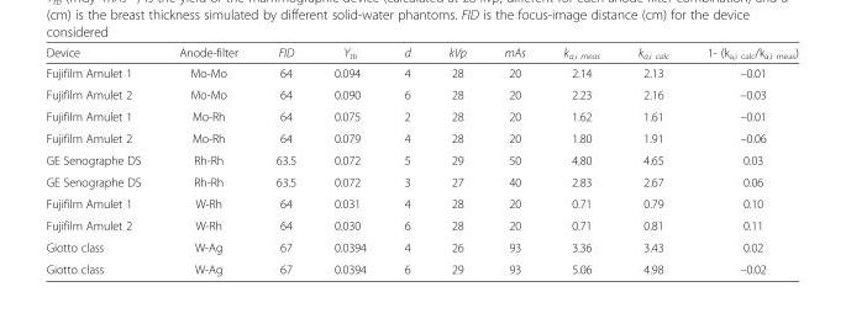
<table><thead><tr><td>Device</td><td>Anode-filter</td><td>FID</td><td>Y<sub>tb</sub></td><td>d</td><td>kVp</td><td>mAs</td><td>k<sub>a,i meas</sub></td><td>k<sub>a,i calc</sub></td><td>1- (k<sub>a,i calc</sub>/k<sub>a,i meas</sub>)</td></tr></thead><tbody><tr><td>Fujifilm Amulet 1</td><td>Mo-Mo</td><td>64</td><td>0.094</td><td>4</td><td>28</td><td>20</td><td>2.14</td><td>2.13</td><td>–0.01</td></tr><tr><td>Fujifilm Amulet 2</td><td>Mo-Mo</td><td>64</td><td>0.090</td><td>6</td><td>28</td><td>20</td><td>2.23</td><td>2.16</td><td>–0.03</td></tr><tr><td>Fujifilm Amulet 1</td><td>Mo-Rh</td><td>64</td><td>0.075</td><td>2</td><td>28</td><td>20</td><td>1.62</td><td>1.61</td><td>–0.01</td></tr><tr><td>Fujifilm Amulet 2</td><td>Mo-Rh</td><td>64</td><td>0.079</td><td>4</td><td>28</td><td>20</td><td>1.80</td><td>1.91</td><td>–0.06</td></tr><tr><td>GE Senographe DS</td><td>Rh-Rh</td><td>63.5</td><td>0.072</td><td>5</td><td>29</td><td>50</td><td>4.80</td><td>4.65</td><td>0.03</td></tr><tr><td>GE Senographe DS</td><td>Rh-Rh</td><td>63.5</td><td>0.072</td><td>3</td><td>27</td><td>40</td><td>2.83</td><td>2.67</td><td>0.06</td></tr><tr><td>Fujifilm Amulet 1</td><td>W-Rh</td><td>64</td><td>0.031</td><td>4</td><td>28</td><td>20</td><td>0.71</td><td>0.79</td><td>0.10</td></tr><tr><td>Fujifilm Amulet 2</td><td>W-Rh</td><td>64</td><td>0.030</td><td>6</td><td>28</td><td>20</td><td>0.71</td><td>0.81</td><td>0.11</td></tr><tr><td>Giotto class</td><td>W-Ag</td><td>67</td><td>0.0394</td><td>4</td><td>26</td><td>93</td><td>3.36</td><td>3.43</td><td>0.02</td></tr><tr><td>Giotto class</td><td>W-Ag</td><td>67</td><td>0.0394</td><td>6</td><td>29</td><td>93</td><td>5.06</td><td>4.98</td><td>–0.02</td></tr></tbody></table>